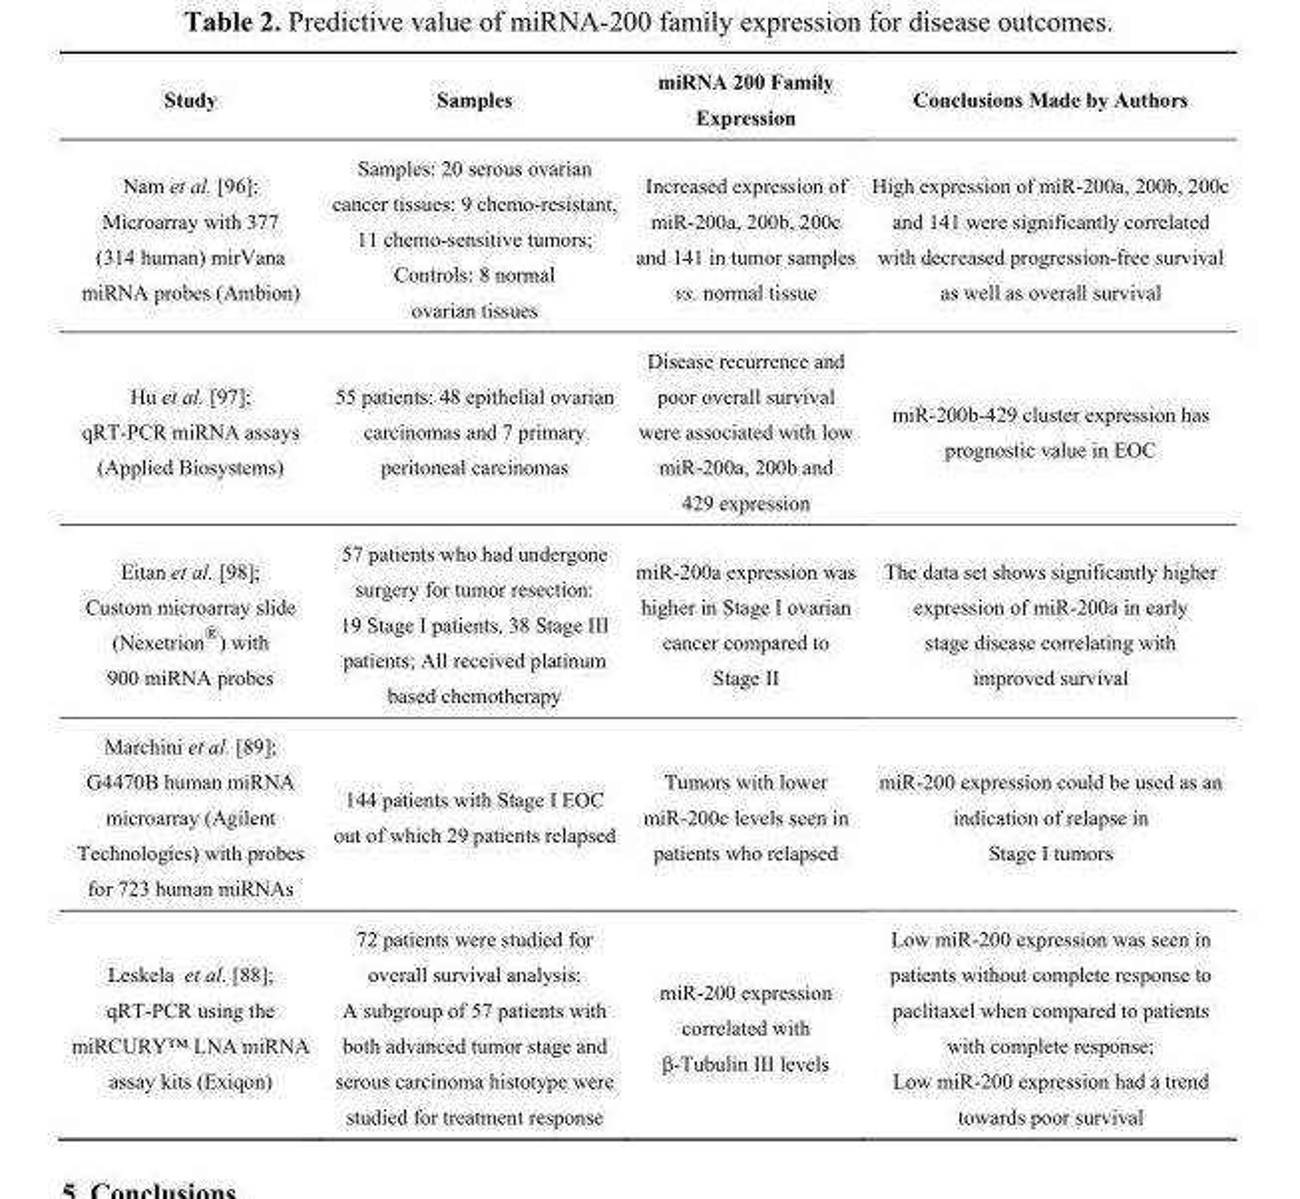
<table><thead><tr><td>Study</td><td>Samples</td><td>miRNA 200 Family Expression</td><td>Conclusions Made by Authors</td></tr></thead><tbody><tr><td>Nam et al. [96]; Microarray with 377 (314 human) mirVana miRNA probes (Ambion)</td><td>Samples: 20 serous ovarian cancer tissues: 9 chemo-resistant, 11 chemo-sensitive tumors; Controls: 8 normal ovarian tissues</td><td>Increased expression of miR-200a, 200b, 200c and 141 in tumor samples vs. normal tissue</td><td>High expression of miR-200a, 200b, 200c and 141 were significantly correlated with decreased progression-free survival as well as overall survival</td></tr><tr><td>Hu et al. [97]; qRT-PCR miRNA assays (Applied Biosystems)</td><td>55 patients: 48 epithelial ovarian carcinomas and 7 primary peritoneal carcinomas</td><td>Disease recurrence and poor overall survival were associated with low miR-200a, 200b and 429 expression</td><td>miR-200b-429 cluster expression has prognostic value in EOC</td></tr><tr><td>Eitan et al. [98]; Custom microarray slide (Nexetrion<sup>®</sup>) with 900 miRNA probes</td><td>57 patients who had undergone surgery for tumor resection: 19 Stage I patients, 38 Stage III patients; All received platinum based chemotherapy</td><td>miR-200a expression was higher in Stage I ovarian cancer compared to Stage II</td><td>The data set shows significantly higher expression of miR-200a in early stage disease correlating with improved survival</td></tr><tr><td>Marchini et al. [89]; G4470B human miRNA microarray (Agilent Technologies) with probes for 723 human miRNAs</td><td>144 patients with Stage I EOC out of which 29 patients relapsed</td><td>Tumors with lower miR-200c levels seen in patients who relapsed</td><td>miR-200 expression could be used as an indication of relapse in Stage I tumors</td></tr><tr><td>Leskela et al. [88]; qRT-PCR using the miRCURY™ LNA miRNA assay kits (Exiqon)</td><td>72 patients were studied for overall survival analysis; A subgroup of 57 patients with both advanced tumor stage and serous carcinoma histotype were studied for treatment response</td><td>miR-200 expression correlated with β-Tubulin III levels</td><td>Low miR-200 expression was seen in patients without complete response to paclitaxel when compared to patients with complete response; Low miR-200 expression had a trend towards poor survival</td></tr></tbody></table>